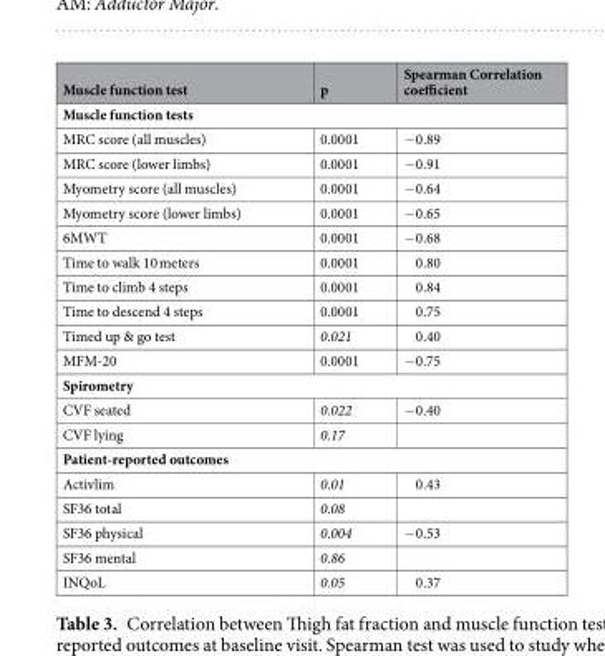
<table><thead><tr><td>Muscle function test</td><td>p</td><td>Spearman Correlation coefficient</td></tr></thead><tbody><tr><td colspan="3">Muscle function tests</td></tr><tr><td>MRC score (all muscles)</td><td>0.0001</td><td>−0.89</td></tr><tr><td>MRC score (lower limbs)</td><td>0.0001</td><td>−0.91</td></tr><tr><td>Myometry score (all muscles)</td><td>0.0001</td><td>−0.64</td></tr><tr><td>Myometry score (lower limbs)</td><td>0.0001</td><td>−0.65</td></tr><tr><td>6MWT</td><td>0.0001</td><td>−0.68</td></tr><tr><td>Time to walk 10 meters</td><td>0.0001</td><td>0.80</td></tr><tr><td>Time to climb 4 steps</td><td>0.0001</td><td>0.84</td></tr><tr><td>Time to descend 4 steps</td><td>0.0001</td><td>0.75</td></tr><tr><td>Timed up &amp; go test</td><td>0.021</td><td>0.40</td></tr><tr><td>MFM-20</td><td>0.0001</td><td>−0.75</td></tr><tr><td colspan="3">Spirometry</td></tr><tr><td>CVF seated</td><td>0.022</td><td>−0.40</td></tr><tr><td>CVF lying</td><td>0.17</td><td></td></tr><tr><td colspan="3">Patient-reported outcomes</td></tr><tr><td>Activlim</td><td>0.01</td><td>0.43</td></tr><tr><td>SF36 total</td><td>0.08</td><td></td></tr><tr><td>SF36 physical</td><td>0.004</td><td>−0.53</td></tr><tr><td>SF36 mental</td><td>0.86</td><td></td></tr><tr><td>INQoL</td><td>0.05</td><td>0.37</td></tr></tbody></table>